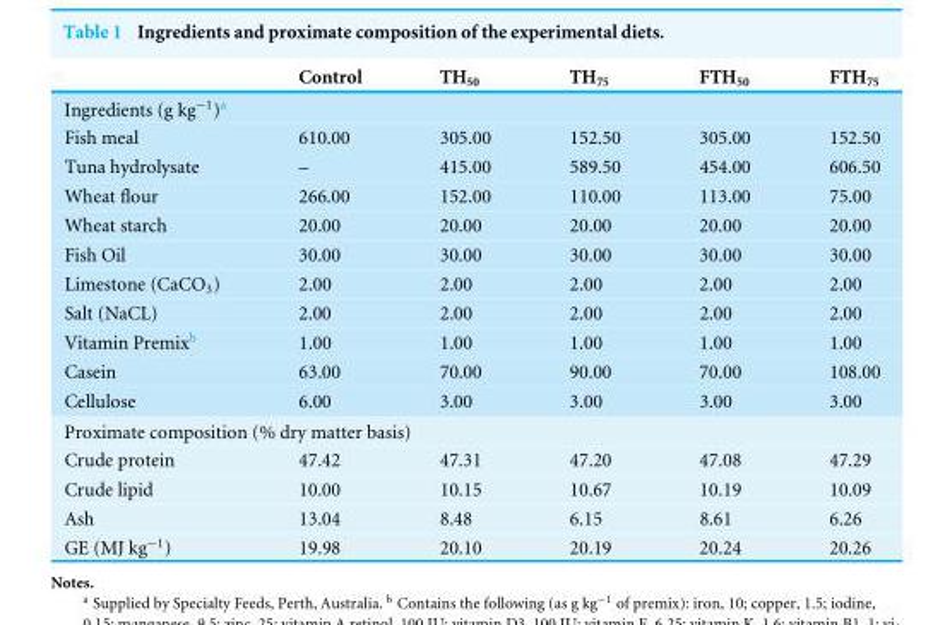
<table><thead><tr><td></td><td>Control</td><td>TH<sub>50</sub></td><td>TH<sub>75</sub></td><td>FTH<sub>50</sub></td><td>FTH<sub>75</sub></td></tr></thead><tbody><tr><td colspan="6">Ingredients (g kg<sup>−1</sup>)<sup>a</sup></td></tr><tr><td>Fish meal</td><td>610.00</td><td>305.00</td><td>152.50</td><td>305.00</td><td>152.50</td></tr><tr><td>Tuna hydrolysate</td><td>–</td><td>415.00</td><td>589.50</td><td>454.00</td><td>606.50</td></tr><tr><td>Wheat flour</td><td>266.00</td><td>152.00</td><td>110.00</td><td>113.00</td><td>75.00</td></tr><tr><td>Wheat starch</td><td>20.00</td><td>20.00</td><td>20.00</td><td>20.00</td><td>20.00</td></tr><tr><td>Fish Oil</td><td>30.00</td><td>30.00</td><td>30.00</td><td>30.00</td><td>30.00</td></tr><tr><td>Limestone (CaCO<sub>3</sub>)</td><td>2.00</td><td>2.00</td><td>2.00</td><td>2.00</td><td>2.00</td></tr><tr><td>Salt (NaCL)</td><td>2.00</td><td>2.00</td><td>2.00</td><td>2.00</td><td>2.00</td></tr><tr><td>Vitamin Premix<sup>b</sup></td><td>1.00</td><td>1.00</td><td>1.00</td><td>1.00</td><td>1.00</td></tr><tr><td>Casein</td><td>63.00</td><td>70.00</td><td>90.00</td><td>70.00</td><td>108.00</td></tr><tr><td>Cellulose</td><td>6.00</td><td>3.00</td><td>3.00</td><td>3.00</td><td>3.00</td></tr><tr><td colspan="6">Proximate composition (% dry matter basis)</td></tr><tr><td>Crude protein</td><td>47.42</td><td>47.31</td><td>47.20</td><td>47.08</td><td>47.29</td></tr><tr><td>Crude lipid</td><td>10.00</td><td>10.15</td><td>10.67</td><td>10.19</td><td>10.09</td></tr><tr><td>Ash</td><td>13.04</td><td>8.48</td><td>6.15</td><td>8.61</td><td>6.26</td></tr><tr><td>GE (MJ kg<sup>−1</sup>)</td><td>19.98</td><td>20.10</td><td>20.19</td><td>20.24</td><td>20.26</td></tr></tbody></table>